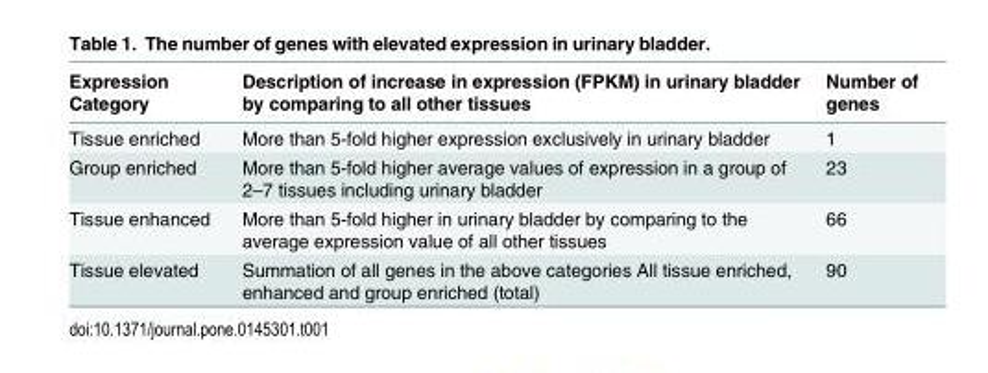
<table><thead><tr><td>Expression Category</td><td>Description of increase in expression (FPKM) in urinary bladder by comparing to all other tissues</td><td>Number of genes</td></tr></thead><tbody><tr><td>Tissue enriched</td><td>More than 5-fold higher expression exclusively in urinary bladder</td><td>1</td></tr><tr><td>Group enriched</td><td>More than 5-fold higher average values of expression in a group of 2–7 tissues including urinary bladder</td><td>23</td></tr><tr><td>Tissue enhanced</td><td>More than 5-fold higher in urinary bladder by comparing to the average expression value of all other tissues</td><td>66</td></tr><tr><td>Tissue elevated</td><td>Summation of all genes in the above categories All tissue enriched, enhanced and group enriched (total)</td><td>90</td></tr></tbody></table>